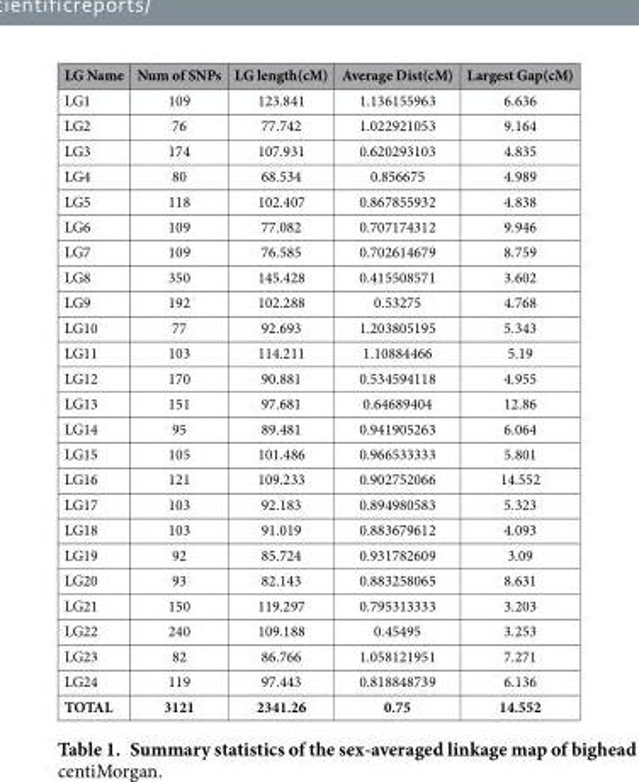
<table><thead><tr><td>LG Name</td><td>Num of SNPs</td><td>LG length(cM)</td><td>Average Dist(cM)</td><td>Largest Gap(cM)</td></tr></thead><tbody><tr><td>LG1</td><td>109</td><td>123.841</td><td>1.136155963</td><td>6.636</td></tr><tr><td>LG2</td><td>76</td><td>77.742</td><td>1.022921053</td><td>9.164</td></tr><tr><td>LG3</td><td>174</td><td>107.931</td><td>0.620293103</td><td>4.835</td></tr><tr><td>LG4</td><td>80</td><td>68.534</td><td>0.856675</td><td>4.989</td></tr><tr><td>LG5</td><td>118</td><td>102.407</td><td>0.867855932</td><td>4.838</td></tr><tr><td>LG6</td><td>109</td><td>77.082</td><td>0.707174312</td><td>9.946</td></tr><tr><td>LG7</td><td>109</td><td>76.585</td><td>0.702614679</td><td>8.759</td></tr><tr><td>LG8</td><td>350</td><td>145.428</td><td>0.415508571</td><td>3.602</td></tr><tr><td>LG9</td><td>192</td><td>102.288</td><td>0.53275</td><td>4.768</td></tr><tr><td>LG10</td><td>77</td><td>92.693</td><td>1.203805195</td><td>5.343</td></tr><tr><td>LG11</td><td>103</td><td>114.211</td><td>1.10884466</td><td>5.19</td></tr><tr><td>LG12</td><td>170</td><td>90.881</td><td>0.534594118</td><td>4.955</td></tr><tr><td>LG13</td><td>151</td><td>97.681</td><td>0.64689404</td><td>12.86</td></tr><tr><td>LG14</td><td>95</td><td>89.481</td><td>0.941905263</td><td>6.064</td></tr><tr><td>LG15</td><td>105</td><td>101.486</td><td>0.966533333</td><td>5.801</td></tr><tr><td>LG16</td><td>121</td><td>109.233</td><td>0.902752066</td><td>14.552</td></tr><tr><td>LG17</td><td>103</td><td>92.183</td><td>0.894980583</td><td>5.323</td></tr><tr><td>LG18</td><td>103</td><td>91.019</td><td>0.883679612</td><td>4.093</td></tr><tr><td>LG19</td><td>92</td><td>85.724</td><td>0.931782609</td><td>3.09</td></tr><tr><td>LG20</td><td>93</td><td>82.143</td><td>0.883258065</td><td>8.631</td></tr><tr><td>LG21</td><td>150</td><td>119.297</td><td>0.795313333</td><td>3.203</td></tr><tr><td>LG22</td><td>240</td><td>109.188</td><td>0.45495</td><td>3.253</td></tr><tr><td>LG23</td><td>82</td><td>86.766</td><td>1.058121951</td><td>7.271</td></tr><tr><td>LG24</td><td>119</td><td>97.443</td><td>0.818848739</td><td>6.136</td></tr><tr><td>TOTAL</td><td>3121</td><td>2341.26</td><td>0.75</td><td>14.552</td></tr></tbody></table>